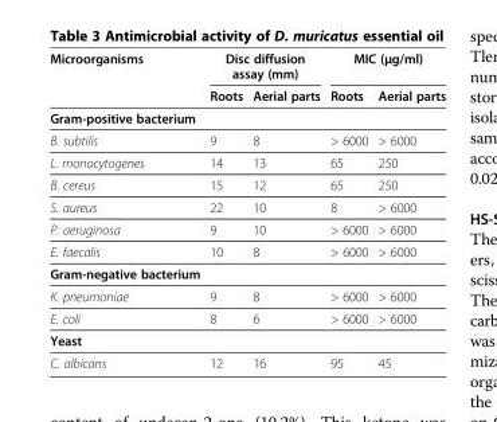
<table><thead><tr><td rowspan="2">Microorganisms</td><td colspan="2">Disc diffusion assay (mm)</td><td colspan="2">MIC (μg/ml)</td></tr><tr><td>Roots</td><td>Aerial parts</td><td>Roots</td><td>Aerial parts</td></tr></thead><tbody><tr><td colspan="5">Gram-positive bacterium</td></tr><tr><td>B. subtilis</td><td>9</td><td>8</td><td>&gt; 6000</td><td>&gt; 6000</td></tr><tr><td>L. monocytogenes</td><td>14</td><td>13</td><td>65</td><td>250</td></tr><tr><td>B. cereus</td><td>15</td><td>12</td><td>65</td><td>250</td></tr><tr><td>S. aureus</td><td>22</td><td>10</td><td>8</td><td>&gt; 6000</td></tr><tr><td>P. aeruginosa</td><td>9</td><td>10</td><td>&gt; 6000</td><td>&gt; 6000</td></tr><tr><td>E. faecalis</td><td>10</td><td>8</td><td>&gt; 6000</td><td>&gt; 6000</td></tr><tr><td colspan="5">Gram-negative bacterium</td></tr><tr><td>K. pneumoniae</td><td>9</td><td>8</td><td>&gt; 6000</td><td>&gt; 6000</td></tr><tr><td>E. coli</td><td>8</td><td>6</td><td>&gt; 6000</td><td>&gt; 6000</td></tr><tr><td colspan="5">Yeast</td></tr><tr><td>C. albicans</td><td>12</td><td>16</td><td>95</td><td>45</td></tr></tbody></table>